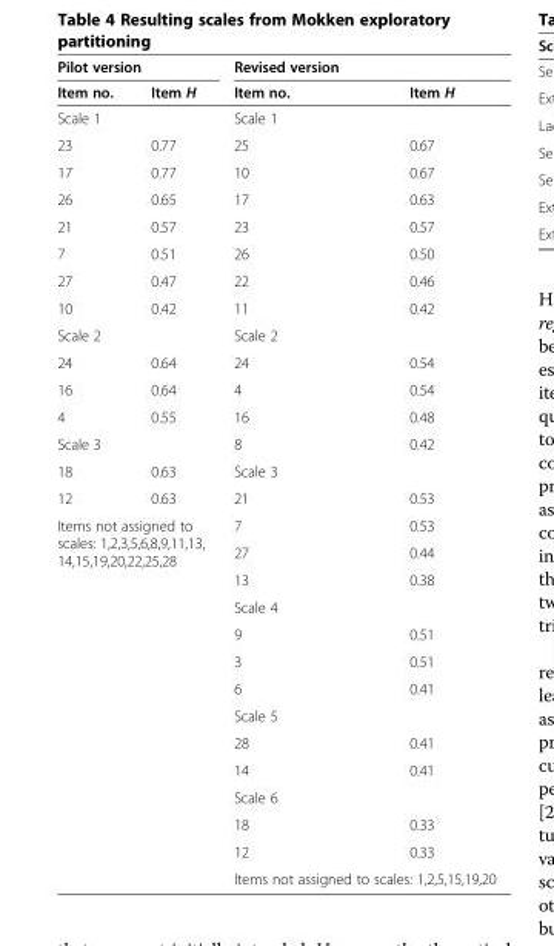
<table><thead><tr><td colspan="2">Pilot version</td><td rowspan="2">Revised version Item no.</td><td rowspan="2">Item H</td></tr><tr><td>Item no.</td><td>Item H</td></tr></thead><tbody><tr><td colspan="4">Scale 1 Scale 1</td></tr><tr><td>23</td><td>0.77</td><td>25</td><td>0.67</td></tr><tr><td>17</td><td>0.77</td><td>10</td><td>0.67</td></tr><tr><td>26</td><td>0.65</td><td>17</td><td>0.63</td></tr><tr><td>21</td><td>0.57</td><td>23</td><td>0.57</td></tr><tr><td>7</td><td>0.51</td><td>26</td><td>0.50</td></tr><tr><td>27</td><td>0.47</td><td>22</td><td>0.46</td></tr><tr><td>10</td><td>0.42</td><td>11</td><td>0.42</td></tr><tr><td colspan="2">Scale 2</td><td colspan="2">Scale 2</td></tr><tr><td>24</td><td>0.64</td><td>24</td><td>0.54</td></tr><tr><td>16</td><td>0.64</td><td>4</td><td>0.54</td></tr><tr><td>4</td><td>0.55</td><td>16</td><td>0.48</td></tr><tr><td colspan="2">Scale 3</td><td>8</td><td>0.42</td></tr><tr><td>18</td><td>0.63</td><td colspan="2">Scale 3</td></tr><tr><td>12</td><td>0.63</td><td>21</td><td>0.53</td></tr><tr><td rowspan="4" colspan="2">Items not assigned to scales: 1,2,3,5,6,8,9,11,13, 14,15,19,20,22,25,28</td><td>7</td><td>0.53</td></tr><tr><td>27</td><td>0.44</td></tr><tr><td>13</td><td>0.38</td></tr><tr><td>Scale 4</td><td></td></tr><tr><td></td><td></td><td>9</td><td>0.51</td></tr><tr><td></td><td></td><td>3</td><td>0.51</td></tr><tr><td></td><td></td><td>6</td><td>0.41</td></tr><tr><td></td><td></td><td colspan="2">Scale 5</td></tr><tr><td></td><td></td><td>28</td><td>0.41</td></tr><tr><td></td><td></td><td>14</td><td>0.41</td></tr><tr><td></td><td></td><td colspan="2">Scale 6</td></tr><tr><td></td><td></td><td>18</td><td>0.33</td></tr><tr><td></td><td></td><td>12</td><td>0.33</td></tr><tr><td></td><td></td><td colspan="2">Items not assigned to scales: 1,2,5,15,19,20</td></tr></tbody></table>